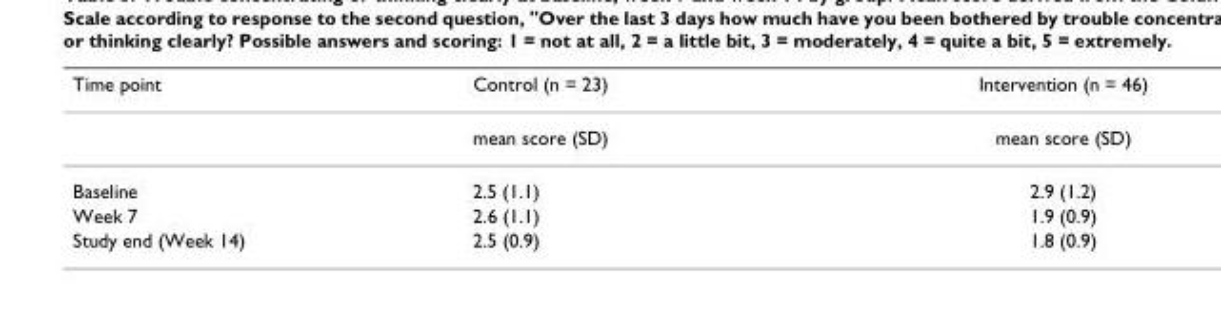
<table><thead><tr><td>Time point</td><td>Control (n = 23)</td><td>Intervention (n = 46)</td></tr></thead><tbody><tr><td></td><td>mean score (SD)</td><td>mean score (SD)</td></tr><tr><td>Baseline</td><td>2.5 (1.1)</td><td>2.9 (1.2)</td></tr><tr><td>Week 7</td><td>2.6 (1.1)</td><td>1.9 (0.9)</td></tr><tr><td>Study end (Week 14)</td><td>2.5 (0.9)</td><td>1.8 (0.9)</td></tr></tbody></table>